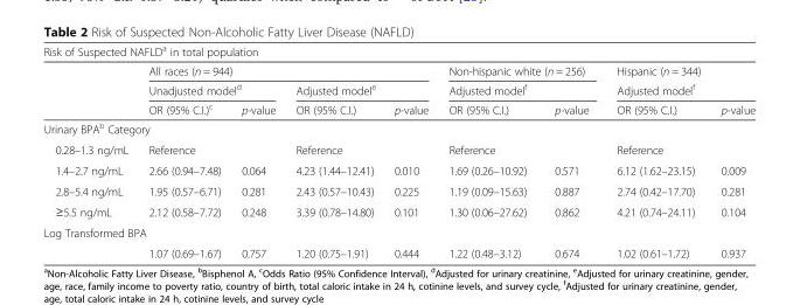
<table><thead><tr><td colspan="9">Risk of Suspected NAFLD<sup>a</sup> in total population</td></tr><tr><td rowspan="3"></td><td colspan="4">All races (n = 944)</td><td rowspan="2" colspan="2">Non-hispanic white (n = 256) Adjusted model<sup>f</sup></td><td rowspan="3">Hispanic (n = 344) Adjusted model<sup>f</sup> OR (95% C.I.)</td><td rowspan="3">p-value</td></tr><tr><td colspan="2">Unadjusted model<sup>d</sup></td><td colspan="2">Adjusted model<sup>e</sup></td></tr><tr><td>OR (95% C.I.)<sup>c</sup></td><td>p-value</td><td>OR (95% C.I.)</td><td>p-value</td><td>OR (95% C.I.)</td><td>p-value</td></tr></thead><tbody><tr><td colspan="9">Urinary BPA<sup>b</sup> Category</td></tr><tr><td>0.28–1.3 ng/mL</td><td>Reference</td><td></td><td>Reference</td><td></td><td>Reference</td><td></td><td>Reference</td><td></td></tr><tr><td>1.4–2.7 ng/mL</td><td>2.66 (0.94–7.48)</td><td>0.064</td><td>4.23 (1.44–12.41)</td><td>0.010</td><td>1.69 (0.26–10.92)</td><td>0.571</td><td>6.12 (1.62–23.15)</td><td>0.009</td></tr><tr><td>2.8–5.4 ng/mL</td><td>1.95 (0.57–6.71)</td><td>0.281</td><td>2.43 (0.57–10.43)</td><td>0.225</td><td>1.19 (0.09–15.63)</td><td>0.887</td><td>2.74 (0.42–17.70)</td><td>0.281</td></tr><tr><td>≥5.5 ng/mL</td><td>2.12 (0.58–7.72)</td><td>0.248</td><td>3.39 (0.78–14.80)</td><td>0.101</td><td>1.30 (0.06–27.62)</td><td>0.862</td><td>4.21 (0.74–24.11)</td><td>0.104</td></tr><tr><td colspan="9">Log Transformed BPA</td></tr><tr><td></td><td>1.07 (0.69–1.67)</td><td>0.757</td><td>1.20 (0.75–1.91)</td><td>0.444</td><td>1.22 (0.48–3.12)</td><td>0.674</td><td>1.02 (0.61–1.72)</td><td>0.937</td></tr></tbody></table>